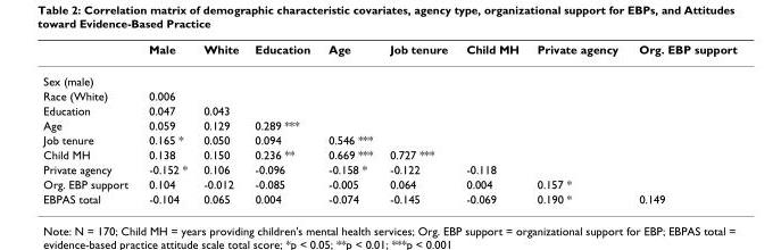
<table><thead><tr><td></td><td>Male</td><td>White</td><td>Education</td><td>Age</td><td>Job tenure</td><td>Child MH</td><td>Private agency</td><td>Org. EBP support</td></tr></thead><tbody><tr><td colspan="9">Sex (male)</td></tr><tr><td>Race (White)</td><td>0.006</td><td></td><td></td><td></td><td></td><td></td><td></td><td></td></tr><tr><td>Education</td><td>0.047</td><td>0.043</td><td></td><td></td><td></td><td></td><td></td><td></td></tr><tr><td>Age</td><td>0.059</td><td>0.129</td><td>0.289 ***</td><td></td><td></td><td></td><td></td><td></td></tr><tr><td>Job tenure</td><td>0.165 *</td><td>0.050</td><td>0.094</td><td>0.546 ***</td><td></td><td></td><td></td><td></td></tr><tr><td>Child MH</td><td>0.138</td><td>0.150</td><td>0.236 **</td><td>0.669 ***</td><td>0.727 ***</td><td></td><td></td><td></td></tr><tr><td>Private agency</td><td>-0.152 *</td><td>0.106</td><td>-0.096</td><td>-0.158 *</td><td>-0.122</td><td>-0.118</td><td></td><td></td></tr><tr><td>Org. EBP support</td><td>0.104</td><td>-0.012</td><td>-0.085</td><td>-0.005</td><td>0.064</td><td>0.004</td><td>0.157 *</td><td></td></tr><tr><td>EBPAS total</td><td>-0.104</td><td>0.065</td><td>0.004</td><td>-0.074</td><td>-0.145</td><td>-0.069</td><td>0.190 *</td><td>0.149</td></tr></tbody></table>